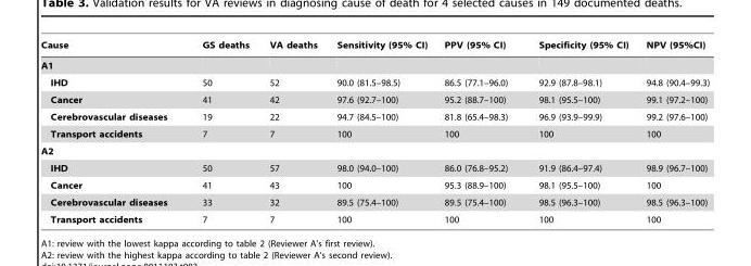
<table><thead><tr><td>Cause</td><td>GS deaths</td><td>VA deaths</td><td>Sensitivity (95% CI)</td><td>PPV (95% CI)</td><td>Specificity (95% CI)</td><td>NPV (95%CI)</td></tr></thead><tbody><tr><td colspan="7">A1</td></tr><tr><td>IHD</td><td>50</td><td>52</td><td>90.0 (81.5–98.5)</td><td>86.5 (77.1–96.0)</td><td>92.9 (87.8–98.1)</td><td>94.8 (90.4–99.3)</td></tr><tr><td>Cancer</td><td>41</td><td>42</td><td>97.6 (92.7–100)</td><td>95.2 (88.7–100)</td><td>98.1 (95.5–100)</td><td>99.1 (97.2–100)</td></tr><tr><td>Cerebrovascular diseases</td><td>19</td><td>22</td><td>94.7 (84.5–100)</td><td>81.8 (65.4–98.3)</td><td>96.9 (93.9–99.9)</td><td>99.2 (97.6–100)</td></tr><tr><td>Transport accidents</td><td>7</td><td>7</td><td>100</td><td>100</td><td>100</td><td>100</td></tr><tr><td colspan="7">A2</td></tr><tr><td>IHD</td><td>50</td><td>57</td><td>98.0 (94.0–100)</td><td>86.0 (76.8–95.2)</td><td>91.9 (86.4–97.4)</td><td>98.9 (96.7–100)</td></tr><tr><td>Cancer</td><td>41</td><td>43</td><td>100</td><td>95.3 (88.9–100)</td><td>98.1 (95.5–100)</td><td>100</td></tr><tr><td>Cerebrovascular diseases</td><td>33</td><td>32</td><td>89.5 (75.4–100)</td><td>89.5 (75.4–100)</td><td>98.5 (96.3–100)</td><td>98.5 (96.3–100)</td></tr><tr><td>Transport accidents</td><td>7</td><td>7</td><td>100</td><td>100</td><td>100</td><td>100</td></tr></tbody></table>